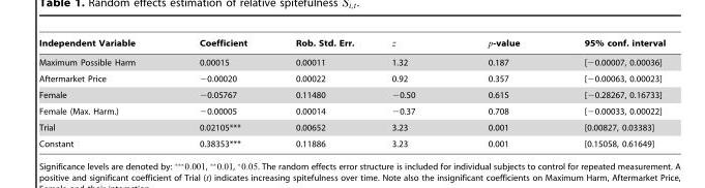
<table><thead><tr><td>Independent Variable</td><td>Coefficient</td><td>Rob. Std. Err.</td><td>z</td><td>p-value</td><td>95% conf. interval</td></tr></thead><tbody><tr><td>Maximum Possible Harm</td><td>0.00015</td><td>0.00011</td><td>1.32</td><td>0.187</td><td>[−0.00007, 0.00036]</td></tr><tr><td>Aftermarket Price</td><td>−0.00020</td><td>0.00022</td><td>0.92</td><td>0.357</td><td>[−0.00063, 0.00023]</td></tr><tr><td>Female</td><td>−0.05767</td><td>0.11480</td><td>−0.50</td><td>0.615</td><td>[−0.28267, 0.16733]</td></tr><tr><td>Female (Max. Harm.)</td><td>−0.00005</td><td>0.00014</td><td>−0.37</td><td>0.708</td><td>[−0.00033, 0.00022]</td></tr><tr><td>Trial</td><td>0.02105***</td><td>0.00652</td><td>3.23</td><td>0.001</td><td>[0.00827, 0.03383]</td></tr><tr><td>Constant</td><td>0.38353***</td><td>0.11886</td><td>3.23</td><td>0.001</td><td>[0.15058, 0.61649]</td></tr></tbody></table>